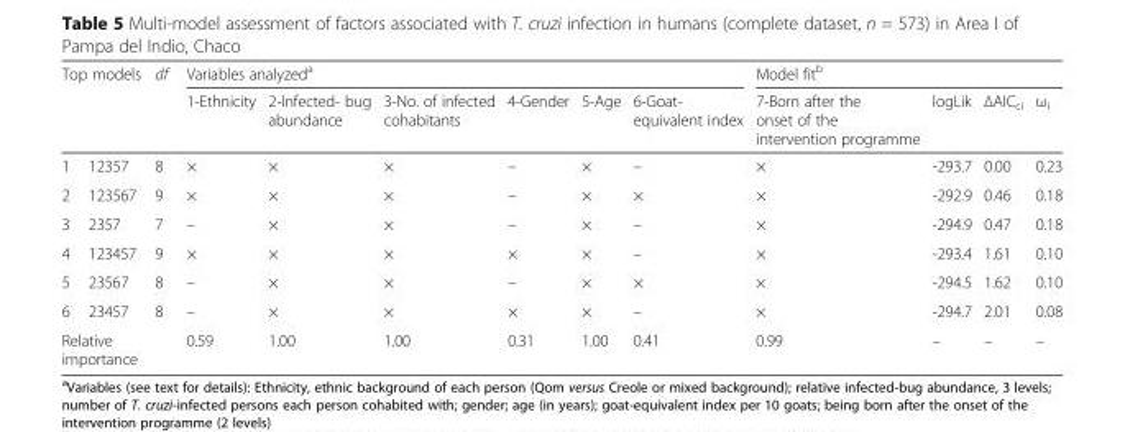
<table><thead><tr><td rowspan="2" colspan="2">Top models</td><td rowspan="3">df 8</td><td colspan="6">Variables analyzed<sup>a</sup></td><td colspan="4">Model fit<sup>b</sup></td></tr><tr><td rowspan="2">1-Ethnicity ×</td><td rowspan="2">2-Infected- bug abundance ×</td><td rowspan="2">3-No. of infected cohabitants ×</td><td rowspan="2">4-Gender –</td><td rowspan="2">5-Age ×</td><td rowspan="2">6-Goat- equivalent index –</td><td rowspan="2">7-Born after the onset of the intervention programme ×</td><td rowspan="2">logLik -293.7</td><td rowspan="2">ΔAICci 0.00</td><td rowspan="2">ω<sub>i</sub> 0.23</td></tr><tr><td>1</td><td>12357</td></tr></thead><tbody><tr><td>2</td><td>123567</td><td>9</td><td>×</td><td>×</td><td>×</td><td>–</td><td>×</td><td>×</td><td>×</td><td>-292.9</td><td>0.46</td><td>0.18</td></tr><tr><td>3</td><td>2357</td><td>7</td><td>–</td><td>×</td><td>×</td><td>–</td><td>×</td><td>–</td><td>×</td><td>-294.9</td><td>0.47</td><td>0.18</td></tr><tr><td>4</td><td>123457</td><td>9</td><td>×</td><td>×</td><td>×</td><td>×</td><td>×</td><td>–</td><td>×</td><td>-293.4</td><td>1.61</td><td>0.10</td></tr><tr><td>5</td><td>23567</td><td>8</td><td>–</td><td>×</td><td>×</td><td>–</td><td>×</td><td>×</td><td>×</td><td>-294.5</td><td>1.62</td><td>0.10</td></tr><tr><td>6</td><td>23457</td><td>8</td><td>–</td><td>×</td><td>×</td><td>×</td><td>×</td><td>–</td><td>×</td><td>-294.7</td><td>2.01</td><td>0.08</td></tr><tr><td colspan="3">Relative importance</td><td>0.59</td><td>1.00</td><td>1.00</td><td>0.31</td><td>1.00</td><td>0.41</td><td>0.99</td><td>–</td><td>–</td><td>–</td></tr></tbody></table>